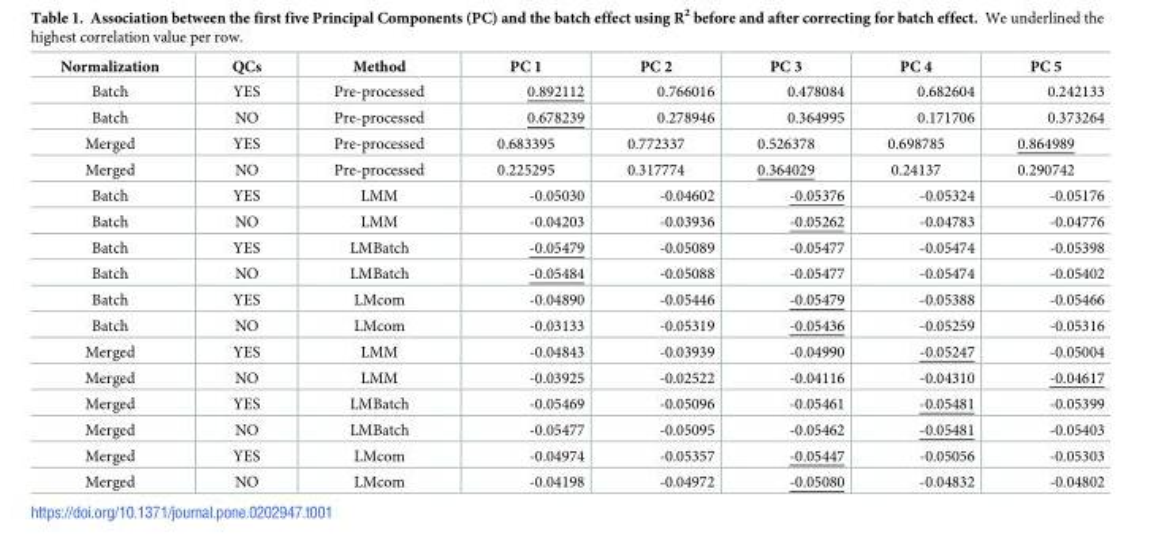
<table><thead><tr><td>Normalization</td><td>QCs</td><td>Method</td><td>PC 1</td><td>PC 2</td><td>PC 3</td><td>PC 4</td><td>PC 5</td></tr></thead><tbody><tr><td>Batch</td><td>YES</td><td>Pre-processed</td><td>0.892112</td><td>0.766016</td><td>0.478084</td><td>0.682604</td><td>0.242133</td></tr><tr><td>Batch</td><td>NO</td><td>Pre-processed</td><td>0.678239</td><td>0.278946</td><td>0.364995</td><td>0.171706</td><td>0.373264</td></tr><tr><td>Merged</td><td>YES</td><td>Pre-processed</td><td>0.683395</td><td>0.772337</td><td>0.526378</td><td>0.698785</td><td>0.864989</td></tr><tr><td>Merged</td><td>NO</td><td>Pre-processed</td><td>0.225295</td><td>0.317774</td><td>0.364029</td><td>0.24137</td><td>0.290742</td></tr><tr><td>Batch</td><td>YES</td><td>LMM</td><td>-0.05030</td><td>-0.04602</td><td>-0.05376</td><td>-0.05324</td><td>-0.05176</td></tr><tr><td>Batch</td><td>NO</td><td>LMM</td><td>-0.04203</td><td>-0.03936</td><td>-0.05262</td><td>-0.04783</td><td>-0.04776</td></tr><tr><td>Batch</td><td>YES</td><td>LMBatch</td><td>-0.05479</td><td>-0.05089</td><td>-0.05477</td><td>-0.05474</td><td>-0.05398</td></tr><tr><td>Batch</td><td>NO</td><td>LMBatch</td><td>-0.05484</td><td>-0.05088</td><td>-0.05477</td><td>-0.05474</td><td>-0.05402</td></tr><tr><td>Batch</td><td>YES</td><td>LMcom</td><td>-0.04890</td><td>-0.05446</td><td>-0.05479</td><td>-0.05388</td><td>-0.05466</td></tr><tr><td>Batch</td><td>NO</td><td>LMcom</td><td>-0.03133</td><td>-0.05319</td><td>-0.05436</td><td>-0.05259</td><td>-0.05316</td></tr><tr><td>Merged</td><td>YES</td><td>LMM</td><td>-0.04843</td><td>-0.03939</td><td>-0.04990</td><td>-0.05247</td><td>-0.05004</td></tr><tr><td>Merged</td><td>NO</td><td>LMM</td><td>-0.03925</td><td>-0.02522</td><td>-0.04116</td><td>-0.04310</td><td>-0.04617</td></tr><tr><td>Merged</td><td>YES</td><td>LMBatch</td><td>-0.05469</td><td>-0.05096</td><td>-0.05461</td><td>-0.05481</td><td>-0.05399</td></tr><tr><td>Merged</td><td>NO</td><td>LMBatch</td><td>-0.05477</td><td>-0.05095</td><td>-0.05462</td><td>-0.05481</td><td>-0.05403</td></tr><tr><td>Merged</td><td>YES</td><td>LMcom</td><td>-0.04974</td><td>-0.05357</td><td>-0.05447</td><td>-0.05056</td><td>-0.05303</td></tr><tr><td>Merged</td><td>NO</td><td>LMcom</td><td>-0.04198</td><td>-0.04972</td><td>-0.05080</td><td>-0.04832</td><td>-0.04802</td></tr></tbody></table>